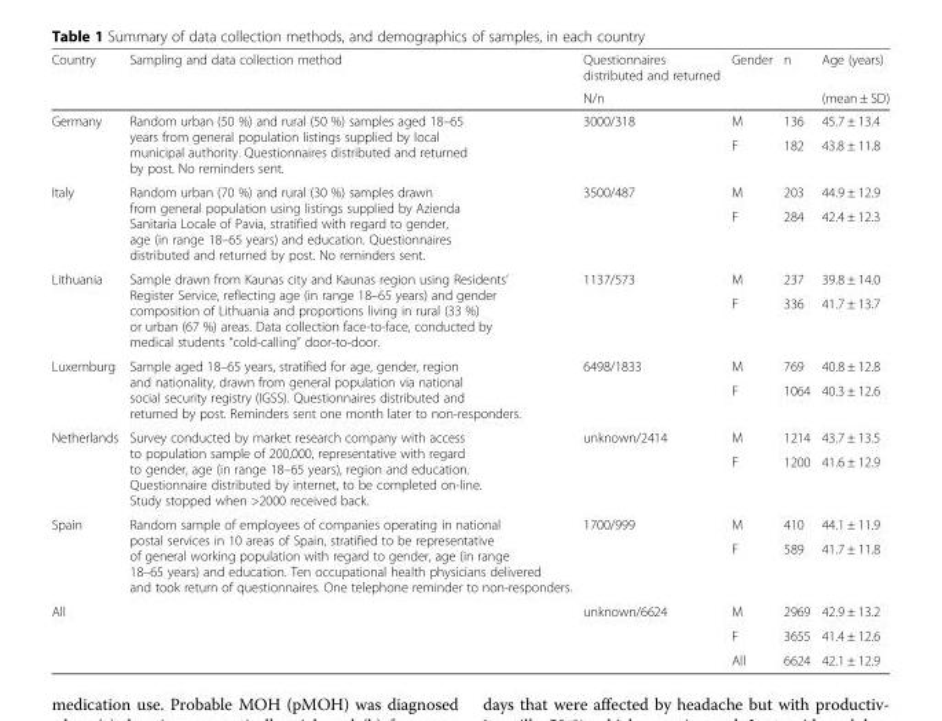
<table><thead><tr><td rowspan="2">Country</td><td rowspan="2">Sampling and data collection method</td><td rowspan="2">Questionnaires distributed and returned N/n</td><td rowspan="2">Gender</td><td rowspan="2">n</td><td rowspan="2">Age (years) (mean ± SD)</td></tr><tr></tr></thead><tbody><tr><td rowspan="2">Germany</td><td rowspan="2">Random urban (50 %) and rural (50 %) samples aged 18–65 years from general population listings supplied by local municipal authority. Questionnaires distributed and returned by post. No reminders sent.</td><td rowspan="2">3000/318</td><td>M</td><td>136</td><td>45.7 ± 13.4</td></tr><tr><td>F</td><td>182</td><td>43.8 ± 11.8</td></tr><tr><td rowspan="2">Italy</td><td rowspan="2">Random urban (70 %) and rural (30 %) samples drawn from general population using listings supplied by Azienda Sanitaria Locale of Pavia, stratified with regard to gender, age (in range 18–65 years) and education. Questionnaires distributed and returned by post. No reminders sent.</td><td rowspan="2">3500/487</td><td>M</td><td>203</td><td>44.9 ± 12.9</td></tr><tr><td>F</td><td>284</td><td>42.4 ± 12.3</td></tr><tr><td rowspan="2">Lithuania</td><td rowspan="2">Sample drawn from Kaunas city and Kaunas region using Residents’ Register Service, reflecting age (in range 18–65 years) and gender composition of Lithuania and proportions living in rural (33 %) or urban (67 %) areas. Data collection face-to-face, conducted by medical students “cold-calling” door-to-door.</td><td rowspan="2">1137/573</td><td>M</td><td>237</td><td>39.8 ± 14.0</td></tr><tr><td>F</td><td>336</td><td>41.7 ± 13.7</td></tr><tr><td rowspan="2">Luxemburg</td><td rowspan="2">Sample aged 18–65 years, stratified for age, gender, region and nationality, drawn from general population via national social security registry (IGSS). Questionnaires distributed and returned by post. Reminders sent one month later to non-responders.</td><td rowspan="2">6498/1833</td><td>M</td><td>769</td><td>40.8 ± 12.8</td></tr><tr><td>F</td><td>1064</td><td>40.3 ± 12.6</td></tr><tr><td rowspan="2">Netherlands</td><td rowspan="2">Survey conducted by market research company with access to population sample of 200,000, representative with regard to gender, age (in range 18–65 years), region and education. Questionnaire distributed by internet, to be completed on-line. Study stopped when &gt;2000 received back.</td><td rowspan="2">unknown/2414</td><td>M</td><td>1214</td><td>43.7 ± 13.5</td></tr><tr><td>F</td><td>1200</td><td>41.6 ± 12.9</td></tr><tr><td rowspan="2">Spain</td><td rowspan="2">Random sample of employees of companies operating in national postal services in 10 areas of Spain, stratified to be representative of general working population with regard to gender, age (in range 18–65 years) and education. Ten occupational health physicians delivered and took return of questionnaires. One telephone reminder to non-responders.</td><td rowspan="2">1700/999</td><td>M</td><td>410</td><td>44.1 ± 11.9</td></tr><tr><td>F</td><td>589</td><td>41.7 ± 11.8</td></tr><tr><td rowspan="3" colspan="2">All</td><td rowspan="3">unknown/6624</td><td>M</td><td>2969</td><td>42.9 ± 13.2</td></tr><tr><td>F</td><td>3655</td><td>41.4 ± 12.6</td></tr><tr><td>All</td><td>6624</td><td>42.1 ± 12.9</td></tr></tbody></table>